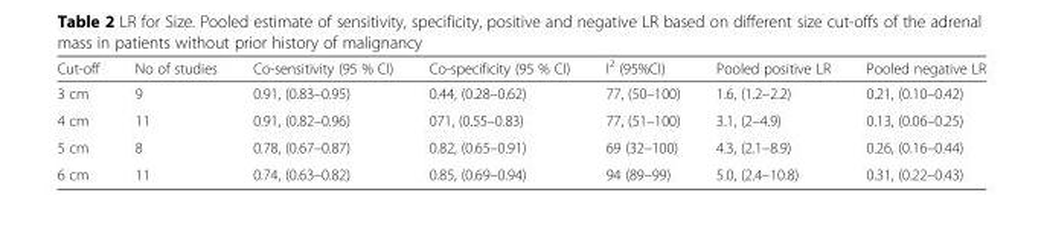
<table><thead><tr><td>Cut-off</td><td>No of studies</td><td>Co-sensitivity (95 % CI)</td><td>Co-specificity (95 % CI)</td><td>I<sup>2</sup> (95%CI)</td><td>Pooled positive LR</td><td>Pooled negative LR</td></tr></thead><tbody><tr><td>3 cm</td><td>9</td><td>0.91, (0.83–0.95)</td><td>0.44, (0.28–0.62)</td><td>77, (50–100)</td><td>1.6, (1.2–2.2)</td><td>0.21, (0.10–0.42)</td></tr><tr><td>4 cm</td><td>11</td><td>0.91, (0.82–0.96)</td><td>071, (0.55–0.83)</td><td>77, (51–100)</td><td>3.1, (2–4.9)</td><td>0.13, (0.06–0.25)</td></tr><tr><td>5 cm</td><td>8</td><td>0.78, (0.67–0.87)</td><td>0.82, (0.65–0.91)</td><td>69 (32–100)</td><td>4.3, (2.1–8.9)</td><td>0.26, (0.16–0.44)</td></tr><tr><td>6 cm</td><td>11</td><td>0.74, (0.63–0.82)</td><td>0.85, (0.69–0.94)</td><td>94 (89–99)</td><td>5.0, (2.4–10.8)</td><td>0.31, (0.22–0.43)</td></tr></tbody></table>